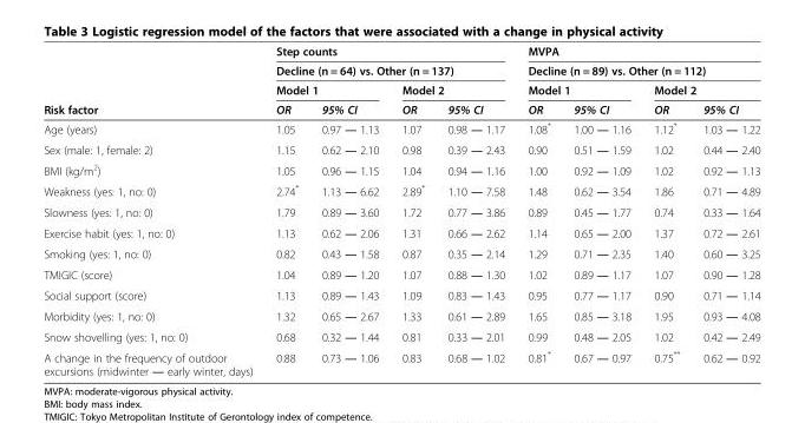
<table><thead><tr><td rowspan="4">Risk factor</td><td rowspan="2" colspan="4">Step counts Decline (n = 64) vs. Other (n = 137)</td><td rowspan="2" colspan="4">MVPA Decline (n = 89) vs. Other (n = 112)</td></tr><tr></tr><tr><td colspan="2">Model 1</td><td colspan="2">Model 2</td><td colspan="2">Model 1</td><td colspan="2">Model 2</td></tr><tr><td>OR</td><td>95% CI</td><td>OR</td><td>95% CI</td><td>OR</td><td>95% CI</td><td>OR</td><td>95% CI</td></tr></thead><tbody><tr><td>Age (years)</td><td>1.05</td><td>0.97 ― 1.13</td><td>1.07</td><td>0.98 ― 1.17</td><td>1.08*</td><td>1.00 ― 1.16</td><td>1.12*</td><td>1.03 ― 1.22</td></tr><tr><td>Sex (male: 1, female: 2)</td><td>1.15</td><td>0.62 ― 2.10</td><td>0.98</td><td>0.39 ― 2.43</td><td>0.90</td><td>0.51 ― 1.59</td><td>1.02</td><td>0.44 ― 2.40</td></tr><tr><td>BMI (kg/m<sup>2</sup>)</td><td>1.05</td><td>0.96 ― 1.15</td><td>1.04</td><td>0.94 ― 1.16</td><td>1.00</td><td>0.92 ― 1.09</td><td>1.02</td><td>0.92 ― 1.13</td></tr><tr><td>Weakness (yes: 1, no: 0)</td><td>2.74*</td><td>1.13 ― 6.62</td><td>2.89*</td><td>1.10 ― 7.58</td><td>1.48</td><td>0.62 ― 3.54</td><td>1.86</td><td>0.71 ― 4.89</td></tr><tr><td>Slowness (yes: 1, no: 0)</td><td>1.79</td><td>0.89 ― 3.60</td><td>1.72</td><td>0.77 ― 3.86</td><td>0.89</td><td>0.45 ― 1.77</td><td>0.74</td><td>0.33 ― 1.64</td></tr><tr><td>Exercise habit (yes: 1, no: 0)</td><td>1.13</td><td>0.62 ― 2.06</td><td>1.31</td><td>0.66 ― 2.62</td><td>1.14</td><td>0.65 ― 2.00</td><td>1.37</td><td>0.72 ― 2.61</td></tr><tr><td>Smoking (yes: 1, no: 0)</td><td>0.82</td><td>0.43 ― 1.58</td><td>0.87</td><td>0.35 ― 2.14</td><td>1.29</td><td>0.71 ― 2.35</td><td>1.40</td><td>0.60 ― 3.25</td></tr><tr><td>TMIGIC (score)</td><td>1.04</td><td>0.89 ― 1.20</td><td>1.07</td><td>0.88 ― 1.30</td><td>1.02</td><td>0.89 ― 1.17</td><td>1.07</td><td>0.90 ― 1.28</td></tr><tr><td>Social support (score)</td><td>1.13</td><td>0.89 ― 1.43</td><td>1.09</td><td>0.83 ― 1.43</td><td>0.95</td><td>0.77 ― 1.17</td><td>0.90</td><td>0.71 ― 1.14</td></tr><tr><td>Morbidity (yes: 1, no: 0)</td><td>1.32</td><td>0.65 ― 2.67</td><td>1.33</td><td>0.61 ― 2.89</td><td>1.65</td><td>0.85 ― 3.18</td><td>1.95</td><td>0.93 ― 4.08</td></tr><tr><td>Snow shovelling (yes: 1, no: 0)</td><td>0.68</td><td>0.32 ― 1.44</td><td>0.81</td><td>0.33 ― 2.01</td><td>0.99</td><td>0.48 ― 2.05</td><td>1.02</td><td>0.42 ― 2.49</td></tr><tr><td>A change in the frequency of outdoor excursions (midwinter ― early winter, days)</td><td>0.88</td><td>0.73 ― 1.06</td><td>0.83</td><td>0.68 ― 1.02</td><td>0.81*</td><td>0.67 ― 0.97</td><td>0.75**</td><td>0.62 ― 0.92</td></tr></tbody></table>